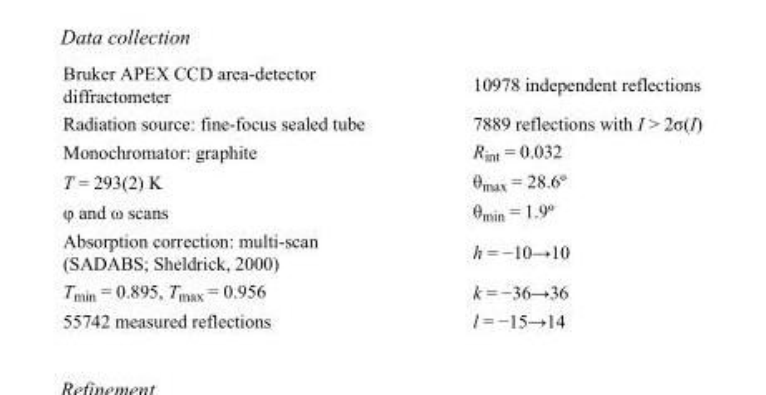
<table><tbody><tr><td>Bruker APEX CCD area-detector diffractometer</td><td>10978 independent reflections</td></tr><tr><td>Radiation source: fine-focus sealed tube</td><td>7889 reflections with I &gt; 2σ(I)</td></tr><tr><td>Monochromator: graphite</td><td>R<sub>int</sub> = 0.032</td></tr><tr><td>T = 293(2) K</td><td>θ<sub>max</sub> = 28.6º</td></tr><tr><td>φ and ω scans</td><td>θ<sub>min</sub> = 1.9º</td></tr><tr><td>Absorption correction: multi-scan (SADABS; Sheldrick, 2000)</td><td>h = −10→10</td></tr><tr><td>T<sub>min</sub> = 0.895, T<sub>max</sub> = 0.956</td><td>k = −36→36</td></tr><tr><td>55742 measured reflections</td><td>l = −15→14</td></tr></tbody></table>